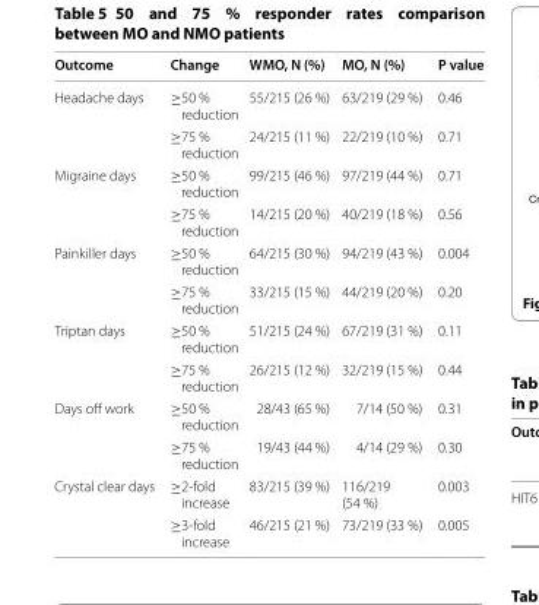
<table><thead><tr><td>Outcome</td><td>Change</td><td>WMO, N (%)</td><td>MO, N (%)</td><td>P value</td></tr></thead><tbody><tr><td rowspan="2">Headache days</td><td>≥50 % reduction</td><td>55/215 (26 %)</td><td>63/219 (29 %)</td><td>0.46</td></tr><tr><td>≥75 % reduction</td><td>24/215 (11 %)</td><td>22/219 (10 %)</td><td>0.71</td></tr><tr><td rowspan="2">Migraine days</td><td>≥50 % reduction</td><td>99/215 (46 %)</td><td>97/219 (44 %)</td><td>0.71</td></tr><tr><td>≥75 % reduction</td><td>14/215 (20 %)</td><td>40/219 (18 %)</td><td>0.56</td></tr><tr><td rowspan="2">Painkiller days</td><td>≥50 % reduction</td><td>64/215 (30 %)</td><td>94/219 (43 %)</td><td>0.004</td></tr><tr><td>≥75 % reduction</td><td>33/215 (15 %)</td><td>44/219 (20 %)</td><td>0.20</td></tr><tr><td rowspan="2">Triptan days</td><td>≥50 % reduction</td><td>51/215 (24 %)</td><td>67/219 (31 %)</td><td>0.11</td></tr><tr><td>≥75 % reduction</td><td>26/215 (12 %)</td><td>32/219 (15 %)</td><td>0.44</td></tr><tr><td rowspan="2">Days off work</td><td>≥50 % reduction</td><td>28/43 (65 %)</td><td>7/14 (50 %)</td><td>0.31</td></tr><tr><td>≥75 % reduction</td><td>19/43 (44 %)</td><td>4/14 (29 %)</td><td>0.30</td></tr><tr><td rowspan="2">Crystal clear days</td><td>≥2-fold increase</td><td>83/215 (39 %)</td><td>116/219 (54 %)</td><td>0.003</td></tr><tr><td>≥3-fold increase</td><td>46/215 (21 %)</td><td>73/219 (33 %)</td><td>0.005</td></tr></tbody></table>